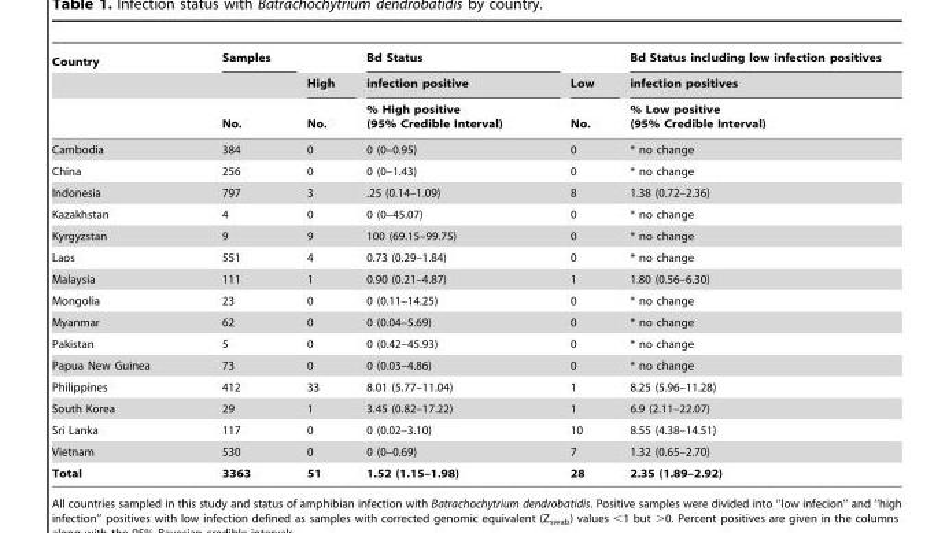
<table><thead><tr><td rowspan="3">Country</td><td rowspan="3">Samples No.</td><td rowspan="3">High No.</td><td rowspan="3">Bd Status infection positive % High positive (95% Credible Interval)</td><td rowspan="3">Low No.</td><td rowspan="3">Bd Status including low infection positives infection positives % Low positive (95% Credible Interval)</td></tr><tr></tr><tr></tr></thead><tbody><tr><td>Cambodia</td><td>384</td><td>0</td><td>0 (0–0.95)</td><td>0</td><td>* no change</td></tr><tr><td>China</td><td>256</td><td>0</td><td>0 (0–1.43)</td><td>0</td><td>* no change</td></tr><tr><td>Indonesia</td><td>797</td><td>3</td><td>.25 (0.14–1.09)</td><td>8</td><td>1.38 (0.72–2.36)</td></tr><tr><td>Kazakhstan</td><td>4</td><td>0</td><td>0 (0–45.07)</td><td>0</td><td>* no change</td></tr><tr><td>Kyrgyzstan</td><td>9</td><td>9</td><td>100 (69.15–99.75)</td><td>0</td><td>* no change</td></tr><tr><td>Laos</td><td>551</td><td>4</td><td>0.73 (0.29–1.84)</td><td>0</td><td>* no change</td></tr><tr><td>Malaysia</td><td>111</td><td>1</td><td>0.90 (0.21–4.87)</td><td>1</td><td>1.80 (0.56–6.30)</td></tr><tr><td>Mongolia</td><td>23</td><td>0</td><td>0 (0.11–14.25)</td><td>0</td><td>* no change</td></tr><tr><td>Myanmar</td><td>62</td><td>0</td><td>0 (0.04–5.69)</td><td>0</td><td>* no change</td></tr><tr><td>Pakistan</td><td>5</td><td>0</td><td>0 (0.42–45.93)</td><td>0</td><td>* no change</td></tr><tr><td>Papua New Guinea</td><td>73</td><td>0</td><td>0 (0.03–4.86)</td><td>0</td><td>* no change</td></tr><tr><td>Philippines</td><td>412</td><td>33</td><td>8.01 (5.77–11.04)</td><td>1</td><td>8.25 (5.96–11.28)</td></tr><tr><td>South Korea</td><td>29</td><td>1</td><td>3.45 (0.82–17.22)</td><td>1</td><td>6.9 (2.11–22.07)</td></tr><tr><td>Sri Lanka</td><td>117</td><td>0</td><td>0 (0.02–3.10)</td><td>10</td><td>8.55 (4.38–14.51)</td></tr><tr><td>Vietnam</td><td>530</td><td>0</td><td>0 (0–0.69)</td><td>7</td><td>1.32 (0.65–2.70)</td></tr><tr><td>Total</td><td>3363</td><td>51</td><td>1.52 (1.15–1.98)</td><td>28</td><td>2.35 (1.89–2.92)</td></tr></tbody></table>